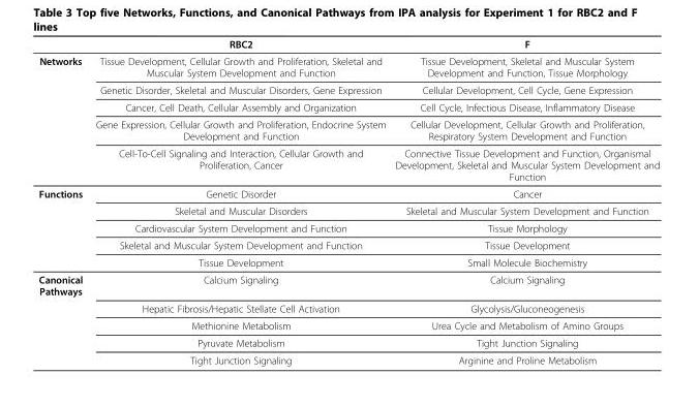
<table><thead><tr><td></td><td>RBC2</td><td>F</td></tr></thead><tbody><tr><td rowspan="5">Networks</td><td>Tissue Development, Cellular Growth and Proliferation, Skeletal and Muscular System Development and Function</td><td>Tissue Development, Skeletal and Muscular System Development and Function, Tissue Morphology</td></tr><tr><td>Genetic Disorder, Skeletal and Muscular Disorders, Gene Expression</td><td>Cellular Development, Cell Cycle, Gene Expression</td></tr><tr><td>Cancer, Cell Death, Cellular Assembly and Organization</td><td>Cell Cycle, Infectious Disease, Inflammatory Disease</td></tr><tr><td>Gene Expression, Cellular Growth and Proliferation, Endocrine System Development and Function</td><td>Cellular Development, Cellular Growth and Proliferation, Respiratory System Development and Function</td></tr><tr><td>Cell-To-Cell Signaling and Interaction, Cellular Growth and Proliferation, Cancer</td><td>Connective Tissue Development and Function, Organismal Development, Skeletal and Muscular System Development and Function</td></tr><tr><td rowspan="5">Functions</td><td>Genetic Disorder</td><td>Cancer</td></tr><tr><td>Skeletal and Muscular Disorders</td><td>Skeletal and Muscular System Development and Function</td></tr><tr><td>Cardiovascular System Development and Function</td><td>Tissue Morphology</td></tr><tr><td>Skeletal and Muscular System Development and Function</td><td>Tissue Development</td></tr><tr><td>Tissue Development</td><td>Small Molecule Biochemistry</td></tr><tr><td rowspan="5">Canonical Pathways</td><td>Calcium Signaling</td><td>Calcium Signaling</td></tr><tr><td>Hepatic Fibrosis/Hepatic Stellate Cell Activation</td><td>Glycolysis/Gluconeogenesis</td></tr><tr><td>Methionine Metabolism</td><td>Urea Cycle and Metabolism of Amino Groups</td></tr><tr><td>Pyruvate Metabolism</td><td>Tight Junction Signaling</td></tr><tr><td>Tight Junction Signaling</td><td>Arginine and Proline Metabolism</td></tr></tbody></table>